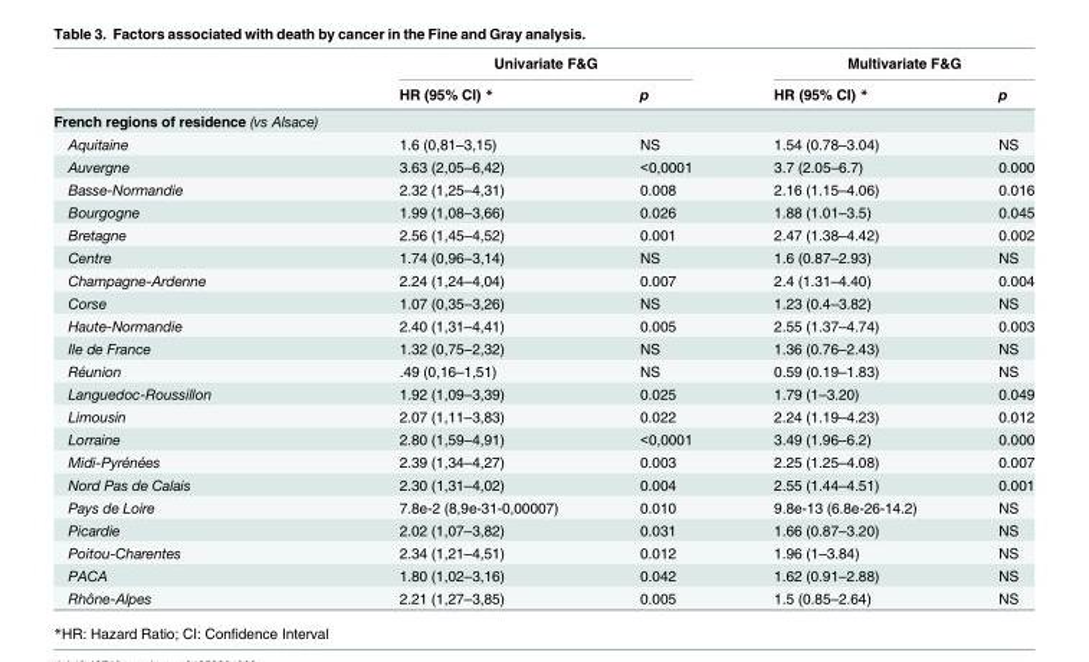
<table><thead><tr><td rowspan="2"></td><td colspan="2">Univariate F&amp;G</td><td colspan="2">Multivariate F&amp;G</td></tr><tr><td>HR (95% CI) *</td><td>p</td><td>HR (95% CI) *</td><td>p</td></tr></thead><tbody><tr><td colspan="5">French regions of residence (vs Alsace)</td></tr><tr><td>Aquitaine</td><td>1.6 (0,81–3,15)</td><td>NS</td><td>1.54 (0.78–3.04)</td><td>NS</td></tr><tr><td>Auvergne</td><td>3.63 (2,05–6,42)</td><td>&lt;0,0001</td><td>3.7 (2.05–6.7)</td><td>0.000</td></tr><tr><td>Basse-Normandie</td><td>2.32 (1,25–4,31)</td><td>0.008</td><td>2.16 (1.15–4.06)</td><td>0.016</td></tr><tr><td>Bourgogne</td><td>1.99 (1,08–3,66)</td><td>0.026</td><td>1.88 (1.01–3.5)</td><td>0.045</td></tr><tr><td>Bretagne</td><td>2.56 (1,45–4,52)</td><td>0.001</td><td>2.47 (1.38–4.42)</td><td>0.002</td></tr><tr><td>Centre</td><td>1.74 (0,96–3,14)</td><td>NS</td><td>1.6 (0.87–2.93)</td><td>NS</td></tr><tr><td>Champagne-Ardenne</td><td>2.24 (1,24–4,04)</td><td>0.007</td><td>2.4 (1.31–4.40)</td><td>0.004</td></tr><tr><td>Corse</td><td>1.07 (0,35–3,26)</td><td>NS</td><td>1.23 (0.4–3.82)</td><td>NS</td></tr><tr><td>Haute-Normandie</td><td>2.40 (1,31–4,41)</td><td>0.005</td><td>2.55 (1.37–4.74)</td><td>0.003</td></tr><tr><td>Ile de France</td><td>1.32 (0,75–2,32)</td><td>NS</td><td>1.36 (0.76–2.43)</td><td>NS</td></tr><tr><td>Réunion</td><td>.49 (0,16–1,51)</td><td>NS</td><td>0.59 (0.19–1.83)</td><td>NS</td></tr><tr><td>Languedoc-Roussillon</td><td>1.92 (1,09–3,39)</td><td>0.025</td><td>1.79 (1–3.20)</td><td>0.049</td></tr><tr><td>Limousin</td><td>2.07 (1,11–3,83)</td><td>0.022</td><td>2.24 (1.19–4.23)</td><td>0.012</td></tr><tr><td>Lorraine</td><td>2.80 (1,59–4,91)</td><td>&lt;0,0001</td><td>3.49 (1.96–6.2)</td><td>0.000</td></tr><tr><td>Midi-Pyrénées</td><td>2.39 (1,34–4,27)</td><td>0.003</td><td>2.25 (1.25–4.08)</td><td>0.007</td></tr><tr><td>Nord Pas de Calais</td><td>2.30 (1,31–4,02)</td><td>0.004</td><td>2.55 (1.44–4.51)</td><td>0.001</td></tr><tr><td>Pays de Loire</td><td>7.8e-2 (8,9e-31-0,00007)</td><td>0.010</td><td>9.8e-13 (6.8e-26-14.2)</td><td>NS</td></tr><tr><td>Picardie</td><td>2.02 (1,07–3,82)</td><td>0.031</td><td>1.66 (0.87–3.20)</td><td>NS</td></tr><tr><td>Poitou-Charentes</td><td>2.34 (1,21–4,51)</td><td>0.012</td><td>1.96 (1–3.84)</td><td>NS</td></tr><tr><td>PACA</td><td>1.80 (1,02–3,16)</td><td>0.042</td><td>1.62 (0.91–2.88)</td><td>NS</td></tr><tr><td>Rhône-Alpes</td><td>2.21 (1,27–3,85)</td><td>0.005</td><td>1.5 (0.85–2.64)</td><td>NS</td></tr></tbody></table>